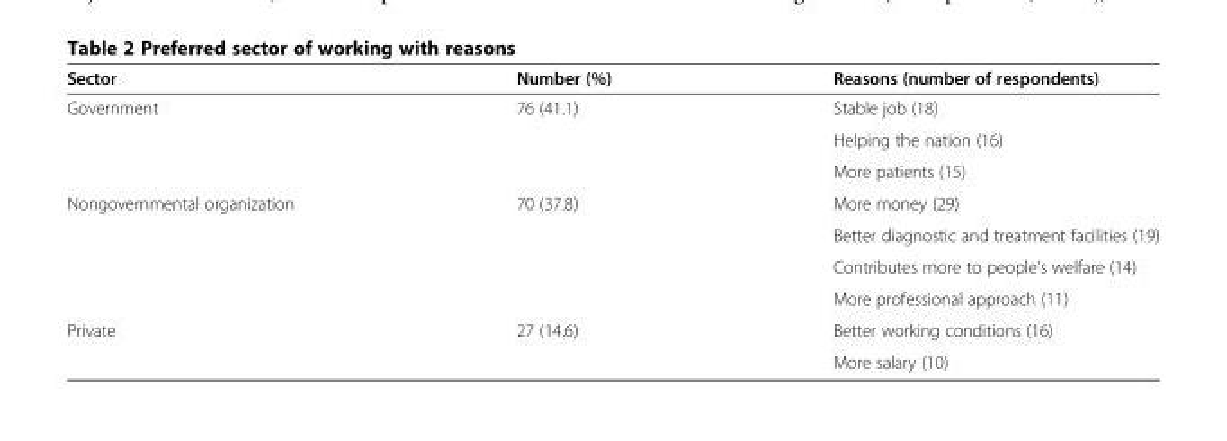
<table><thead><tr><td>Sector</td><td>Number (%)</td><td>Reasons (number of respondents)</td></tr></thead><tbody><tr><td rowspan="3">Government</td><td rowspan="3">76 (41.1)</td><td>Stable job (18)</td></tr><tr><td>Helping the nation (16)</td></tr><tr><td>More patients (15)</td></tr><tr><td rowspan="4">Nongovernmental organization</td><td rowspan="4">70 (37.8)</td><td>More money (29)</td></tr><tr><td>Better diagnostic and treatment facilities (19)</td></tr><tr><td>Contributes more to people’s welfare (14)</td></tr><tr><td>More professional approach (11)</td></tr><tr><td rowspan="2">Private</td><td rowspan="2">27 (14.6)</td><td>Better working conditions (16)</td></tr><tr><td>More salary (10)</td></tr></tbody></table>